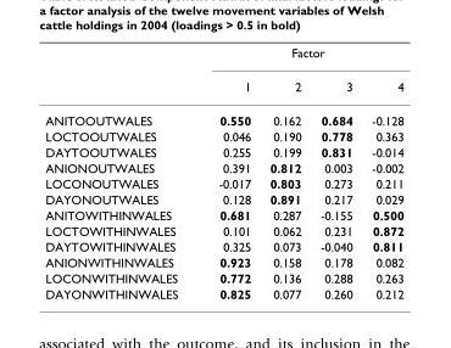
<table><thead><tr><td rowspan="2"></td><td colspan="4">Factor</td></tr><tr><td>1</td><td>2</td><td>3</td><td>4</td></tr></thead><tbody><tr><td>ANITOOUTWALES</td><td>0.550</td><td>0.162</td><td>0.684</td><td>-0.128</td></tr><tr><td>LOCTOOUTWALES</td><td>0.046</td><td>0.190</td><td>0.778</td><td>0.363</td></tr><tr><td>DAYTOOUTWALES</td><td>0.255</td><td>0.199</td><td>0.831</td><td>-0.014</td></tr><tr><td>ANIONOUTWALES</td><td>0.391</td><td>0.812</td><td>0.003</td><td>-0.002</td></tr><tr><td>LOCONOUTWALES</td><td>-0.017</td><td>0.803</td><td>0.273</td><td>0.211</td></tr><tr><td>DAYONOUTWALES</td><td>0.128</td><td>0.891</td><td>0.217</td><td>0.029</td></tr><tr><td>ANITOWITHINWALES</td><td>0.681</td><td>0.287</td><td>-0.155</td><td>0.500</td></tr><tr><td>LOCTOWITHINWALES</td><td>0.101</td><td>0.062</td><td>0.231</td><td>0.872</td></tr><tr><td>DAYTOWITHINWALES</td><td>0.325</td><td>0.073</td><td>-0.040</td><td>0.811</td></tr><tr><td>ANIONWITHINWALES</td><td>0.923</td><td>0.158</td><td>0.178</td><td>0.082</td></tr><tr><td>LOCONWITHINWALES</td><td>0.772</td><td>0.136</td><td>0.288</td><td>0.263</td></tr><tr><td>DAYONWITHINWALES</td><td>0.825</td><td>0.077</td><td>0.260</td><td>0.212</td></tr></tbody></table>